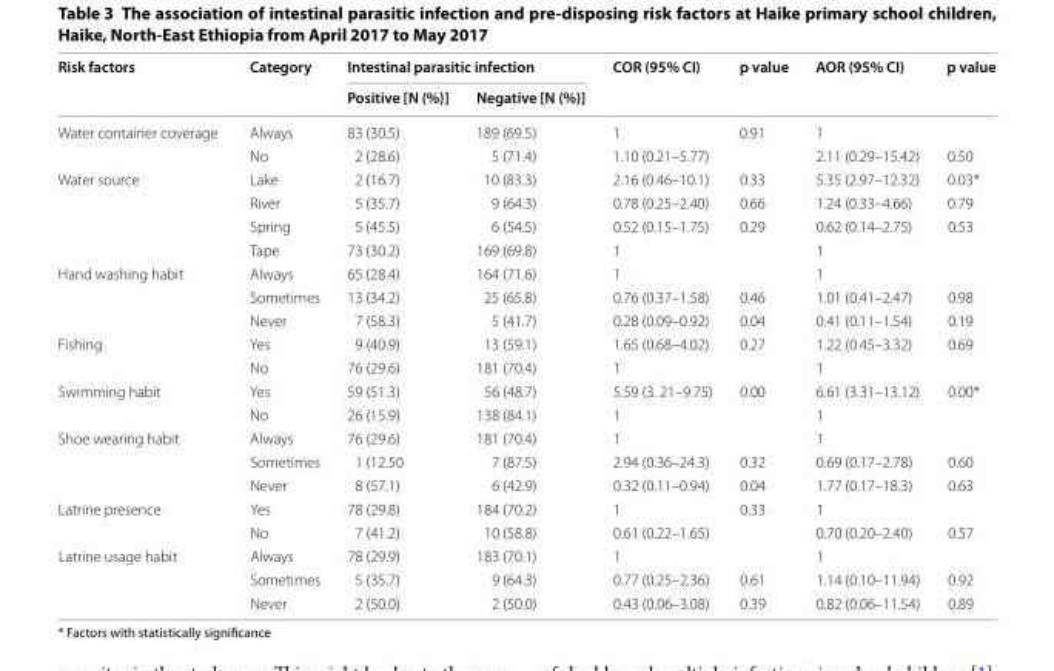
<table><thead><tr><td rowspan="2">Risk factors</td><td rowspan="2">Category</td><td colspan="2">Intestinal parasitic infection</td><td rowspan="2">COR (95% CI)</td><td rowspan="2">p value</td><td rowspan="2">AOR (95% CI)</td><td rowspan="2">p value</td></tr><tr><td>Positive [N (%)]</td><td>Negative [N (%)]</td></tr></thead><tbody><tr><td rowspan="2">Water container coverage</td><td>Always</td><td>83 (30.5)</td><td>189 (69.5)</td><td>1</td><td>0.91</td><td>1</td><td></td></tr><tr><td>No</td><td>2 (28.6)</td><td>5 (71.4)</td><td>1.10 (0.21–5.77)</td><td></td><td>2.11 (0.29–15.42)</td><td>0.50</td></tr><tr><td rowspan="4">Water source</td><td>Lake</td><td>2 (16.7)</td><td>10 (83.3)</td><td>2.16 (0.46–10.1)</td><td>0.33</td><td>5.35 (2.97–12.32)</td><td>0.03*</td></tr><tr><td>River</td><td>5 (35.7)</td><td>9 (64.3)</td><td>0.78 (0.25–2.40)</td><td>0.66</td><td>1.24 (0.33–4.66)</td><td>0.79</td></tr><tr><td>Spring</td><td>5 (45.5)</td><td>6 (54.5)</td><td>0.52 (0.15–1.75)</td><td>0.29</td><td>0.62 (0.14–2.75)</td><td>0.53</td></tr><tr><td>Tape</td><td>73 (30.2)</td><td>169 (69.8)</td><td>1</td><td></td><td>1</td><td></td></tr><tr><td rowspan="3">Hand washing habit</td><td>Always</td><td>65 (28.4)</td><td>164 (71.6)</td><td>1</td><td></td><td>1</td><td></td></tr><tr><td>Sometimes</td><td>13 (34.2)</td><td>25 (65.8)</td><td>0.76 (0.37–1.58)</td><td>0.46</td><td>1.01 (0.41–2.47)</td><td>0.98</td></tr><tr><td>Never</td><td>7 (58.3)</td><td>5 (41.7)</td><td>0.28 (0.09–0.92)</td><td>0.04</td><td>0.41 (0.11–1.54)</td><td>0.19</td></tr><tr><td rowspan="2">Fishing</td><td>Yes</td><td>9 (40.9)</td><td>13 (59.1)</td><td>1.65 (0.68–4.02)</td><td>0.27</td><td>1.22 (0.45–3.32)</td><td>0.69</td></tr><tr><td>No</td><td>76 (29.6)</td><td>181 (70.4)</td><td>1</td><td></td><td>1</td><td></td></tr><tr><td rowspan="2">Swimming habit</td><td>Yes</td><td>59 (51.3)</td><td>56 (48.7)</td><td>5.59 (3. 21–9.75)</td><td>0.00</td><td>6.61 (3.31–13.12)</td><td>0.00*</td></tr><tr><td>No</td><td>26 (15.9)</td><td>138 (84.1)</td><td>1</td><td></td><td>1</td><td></td></tr><tr><td rowspan="3">Shoe wearing habit</td><td>Always</td><td>76 (29.6)</td><td>181 (70.4)</td><td>1</td><td></td><td>1</td><td></td></tr><tr><td>Sometimes</td><td>1 (12.50</td><td>7 (87.5)</td><td>2.94 (0.36–24.3)</td><td>0.32</td><td>0.69 (0.17–2.78)</td><td>0.60</td></tr><tr><td>Never</td><td>8 (57.1)</td><td>6 (42.9)</td><td>0.32 (0.11–0.94)</td><td>0.04</td><td>1.77 (0.17–18.3)</td><td>0.63</td></tr><tr><td rowspan="2">Latrine presence</td><td>Yes</td><td>78 (29.8)</td><td>184 (70.2)</td><td>1</td><td>0.33</td><td>1</td><td></td></tr><tr><td>No</td><td>7 (41.2)</td><td>10 (58.8)</td><td>0.61 (0.22–1.65)</td><td></td><td>0.70 (0.20–2.40)</td><td>0.57</td></tr><tr><td rowspan="3">Latrine usage habit</td><td>Always</td><td>78 (29.9)</td><td>183 (70.1)</td><td>1</td><td></td><td>1</td><td></td></tr><tr><td>Sometimes</td><td>5 (35.7)</td><td>9 (64.3)</td><td>0.77 (0.25–2.36)</td><td>0.61</td><td>1.14 (0.10–11.94)</td><td>0.92</td></tr><tr><td>Never</td><td>2 (50.0)</td><td>2 (50.0)</td><td>0.43 (0.06–3.08)</td><td>0.39</td><td>0.82 (0.06–11.54)</td><td>0.89</td></tr></tbody></table>